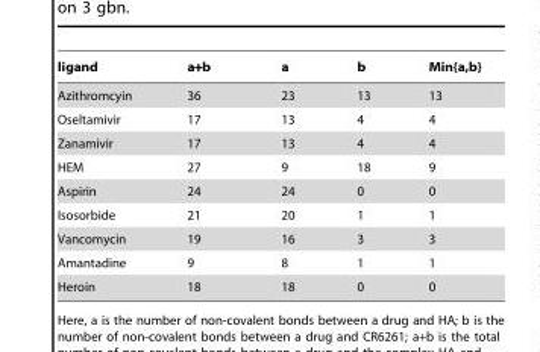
<table><thead><tr><td>ligand</td><td>a+b</td><td>a</td><td>b</td><td>Min{a,b}</td></tr></thead><tbody><tr><td>Azithromcyin</td><td>36</td><td>23</td><td>13</td><td>13</td></tr><tr><td>Oseltamivir</td><td>17</td><td>13</td><td>4</td><td>4</td></tr><tr><td>Zanamivir</td><td>17</td><td>13</td><td>4</td><td>4</td></tr><tr><td>HEM</td><td>27</td><td>9</td><td>18</td><td>9</td></tr><tr><td>Aspirin</td><td>24</td><td>24</td><td>0</td><td>0</td></tr><tr><td>Isosorbide</td><td>21</td><td>20</td><td>1</td><td>1</td></tr><tr><td>Vancomycin</td><td>19</td><td>16</td><td>3</td><td>3</td></tr><tr><td>Amantadine</td><td>9</td><td>8</td><td>1</td><td>1</td></tr><tr><td>Heroin</td><td>18</td><td>18</td><td>0</td><td>0</td></tr></tbody></table>